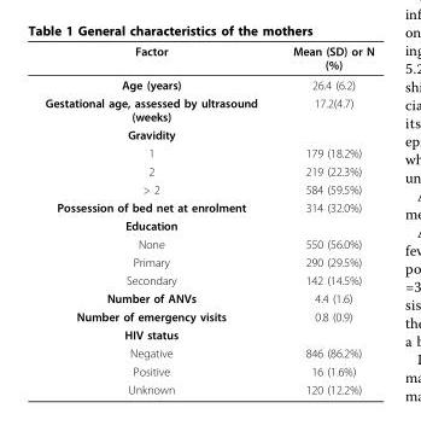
<table><thead><tr><td>Factor</td><td>Mean (SD) or N (%)</td></tr></thead><tbody><tr><td>Age (years)</td><td>26.4 (6.2)</td></tr><tr><td>Gestational age, assessed by ultrasound (weeks)</td><td>17.2(4.7)</td></tr><tr><td colspan="2">Gravidity</td></tr><tr><td>1</td><td>179 (18.2%)</td></tr><tr><td>2</td><td>219 (22.3%)</td></tr><tr><td>&gt; 2</td><td>584 (59.5%)</td></tr><tr><td>Possession of bed net at enrolment</td><td>314 (32.0%)</td></tr><tr><td colspan="2">Education</td></tr><tr><td>None</td><td>550 (56.0%)</td></tr><tr><td>Primary</td><td>290 (29.5%)</td></tr><tr><td>Secondary</td><td>142 (14.5%)</td></tr><tr><td>Number of ANVs</td><td>4.4 (1.6)</td></tr><tr><td>Number of emergency visits</td><td>0.8 (0.9)</td></tr><tr><td colspan="2">HIV status</td></tr><tr><td>Negative</td><td>846 (86.2%)</td></tr><tr><td>Positive</td><td>16 (1.6%)</td></tr><tr><td>Unknown</td><td>120 (12.2%)</td></tr></tbody></table>